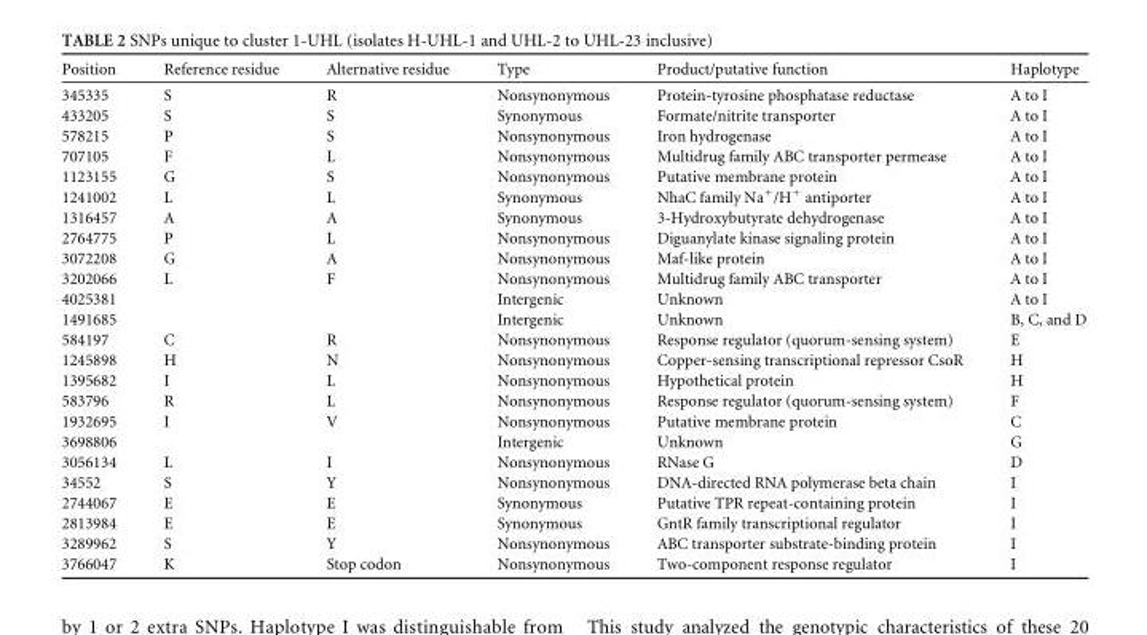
<table><thead><tr><td>Position</td><td>Reference residue</td><td>Alternative residue</td><td>Type</td><td>Product/putative function</td><td>Haplotype</td></tr></thead><tbody><tr><td>345335</td><td>S</td><td>R</td><td>Nonsynonymous</td><td>Protein-tyrosine phosphatase reductase</td><td>A to I</td></tr><tr><td>433205</td><td>S</td><td>S</td><td>Synonymous</td><td>Formate/nitrite transporter</td><td>A to I</td></tr><tr><td>578215</td><td>P</td><td>S</td><td>Nonsynonymous</td><td>Iron hydrogenase</td><td>A to I</td></tr><tr><td>707105</td><td>F</td><td>L</td><td>Nonsynonymous</td><td>Multidrug family ABC transporter permease</td><td>A to I</td></tr><tr><td>1123155</td><td>G</td><td>S</td><td>Nonsynonymous</td><td>Putative membrane protein</td><td>A to I</td></tr><tr><td>1241002</td><td>L</td><td>L</td><td>Synonymous</td><td>NhaC family Na<sup>+</sup>/H<sup>+</sup> antiporter</td><td>A to I</td></tr><tr><td>1316457</td><td>A</td><td>A</td><td>Synonymous</td><td>3-Hydroxybutyrate dehydrogenase</td><td>A to I</td></tr><tr><td>2764775</td><td>P</td><td>L</td><td>Nonsynonymous</td><td>Diguanylate kinase signaling protein</td><td>A to I</td></tr><tr><td>3072208</td><td>G</td><td>A</td><td>Nonsynonymous</td><td>Maf-like protein</td><td>A to I</td></tr><tr><td>3202066</td><td>L</td><td>F</td><td>Nonsynonymous</td><td>Multidrug family ABC transporter</td><td>A to I</td></tr><tr><td>4025381</td><td></td><td></td><td>Intergenic</td><td>Unknown</td><td>A to I</td></tr><tr><td>1491685</td><td></td><td></td><td>Intergenic</td><td>Unknown</td><td>B, C, and D</td></tr><tr><td>584197</td><td>C</td><td>R</td><td>Nonsynonymous</td><td>Response regulator (quorum-sensing system)</td><td>E</td></tr><tr><td>1245898</td><td>H</td><td>N</td><td>Nonsynonymous</td><td>Copper-sensing transcriptional repressor CsoR</td><td>H</td></tr><tr><td>1395682</td><td>I</td><td>L</td><td>Nonsynonymous</td><td>Hypothetical protein</td><td>H</td></tr><tr><td>583796</td><td>R</td><td>L</td><td>Nonsynonymous</td><td>Response regulator (quorum-sensing system)</td><td>F</td></tr><tr><td>1932695</td><td>I</td><td>V</td><td>Nonsynonymous</td><td>Putative membrane protein</td><td>C</td></tr><tr><td>3698806</td><td></td><td></td><td>Intergenic</td><td>Unknown</td><td>G</td></tr><tr><td>3056134</td><td>L</td><td>I</td><td>Nonsynonymous</td><td>RNase G</td><td>D</td></tr><tr><td>34552</td><td>S</td><td>Y</td><td>Nonsynonymous</td><td>DNA-directed RNA polymerase beta chain</td><td>I</td></tr><tr><td>2744067</td><td>E</td><td>E</td><td>Synonymous</td><td>Putative TPR repeat-containing protein</td><td>I</td></tr><tr><td>2813984</td><td>E</td><td>E</td><td>Synonymous</td><td>GntR family transcriptional regulator</td><td>I</td></tr><tr><td>3289962</td><td>S</td><td>Y</td><td>Nonsynonymous</td><td>ABC transporter substrate-binding protein</td><td>I</td></tr><tr><td>3766047</td><td>K</td><td>Stop codon</td><td>Nonsynonymous</td><td>Two-component response regulator</td><td>I</td></tr></tbody></table>